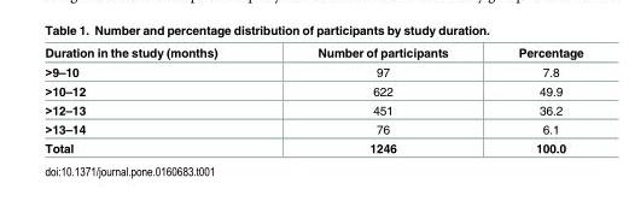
<table><thead><tr><td>Duration in the study (months)</td><td>Number of participants</td><td>Percentage</td></tr></thead><tbody><tr><td>&gt;9–10</td><td>97</td><td>7.8</td></tr><tr><td>&gt;10–12</td><td>622</td><td>49.9</td></tr><tr><td>&gt;12–13</td><td>451</td><td>36.2</td></tr><tr><td>&gt;13–14</td><td>76</td><td>6.1</td></tr><tr><td>Total</td><td>1246</td><td>100.0</td></tr></tbody></table>